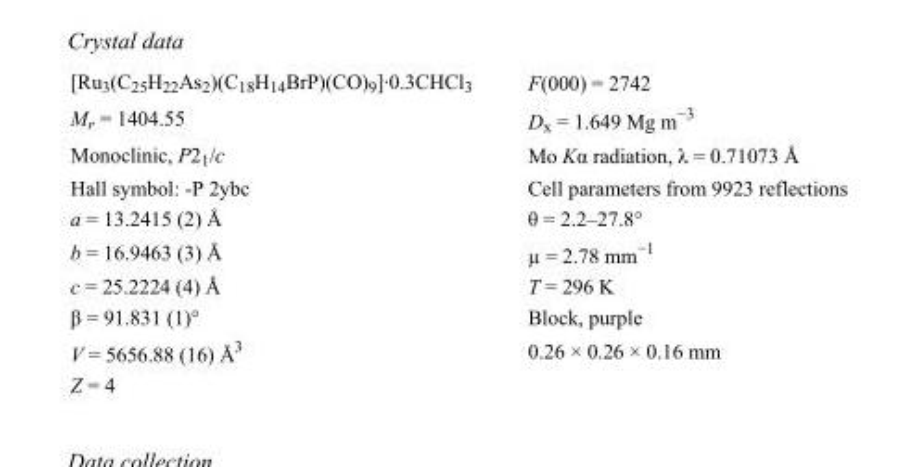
<table><tbody><tr><td>[Ru<sub>3</sub>(C<sub>25</sub>H<sub>22</sub>As<sub>2</sub>)(C<sub>18</sub>H<sub>14</sub>BrP)(CO)<sub>9</sub>]·0.3CHCl<sub>3</sub></td><td>F(000) = 2742</td></tr><tr><td>M<sub>r</sub> = 1404.55</td><td>D<sub>x</sub> = 1.649 Mg m<sup>−3</sup></td></tr><tr><td>Monoclinic, P2<sub>1</sub>/c</td><td>Mo Kα radiation, λ = 0.71073 Å</td></tr><tr><td>Hall symbol: -P 2ybc</td><td>Cell parameters from 9923 reflections</td></tr><tr><td>a = 13.2415 (2) Å</td><td>θ = 2.2–27.8°</td></tr><tr><td>b = 16.9463 (3) Å</td><td>µ = 2.78 mm<sup>−1</sup></td></tr><tr><td>c = 25.2224 (4) Å</td><td>T = 296 K</td></tr><tr><td>β = 91.831 (1)°</td><td>Block, purple</td></tr><tr><td>V = 5656.88 (16) Å<sup>3</sup></td><td>0.26 × 0.26 × 0.16 mm</td></tr><tr><td>Z = 4</td><td></td></tr></tbody></table>